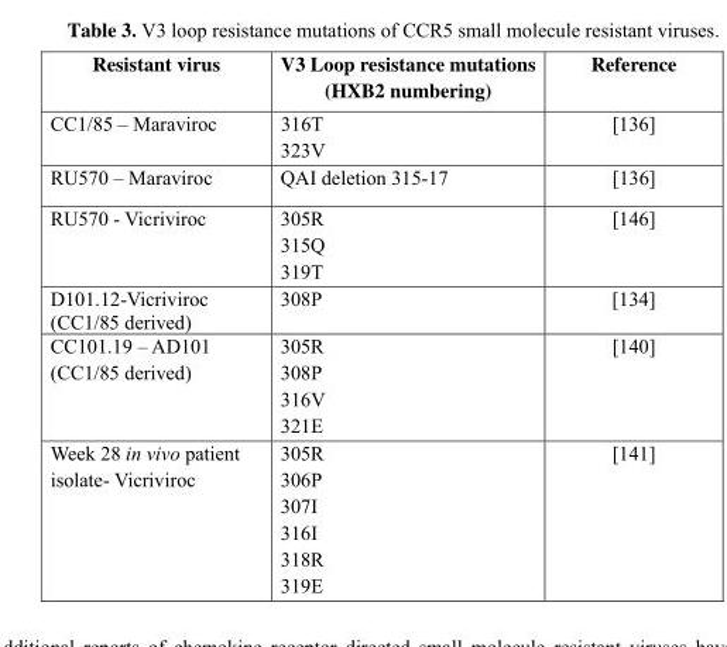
<table><thead><tr><td>Resistant virus</td><td>V3 Loop resistance mutations (HXB2 numbering)</td><td>Reference</td></tr></thead><tbody><tr><td>CC1/85 – Maraviroc</td><td>316T 323V</td><td>[136]</td></tr><tr><td>RU570 – Maraviroc</td><td>QAI deletion 315-17</td><td>[136]</td></tr><tr><td>RU570 - Vicriviroc</td><td>305R 315Q 319T</td><td>[146]</td></tr><tr><td>D101.12-Vicriviroc (CC1/85 derived)</td><td>308P</td><td>[134]</td></tr><tr><td>CC101.19 – AD101 (CC1/85 derived)</td><td>305R 308P 316V 321E</td><td>[140]</td></tr><tr><td>Week 28 in vivo patient isolate- Vicriviroc</td><td>305R 306P 307I 316I 318R 319E</td><td>[141]</td></tr></tbody></table>